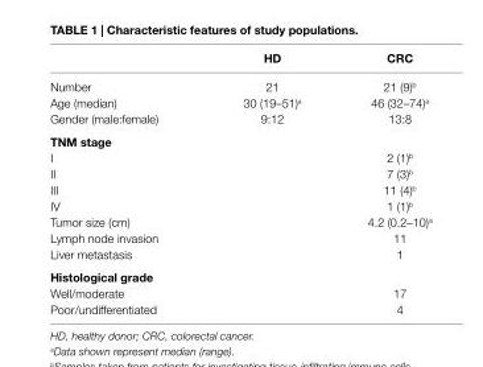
<table><thead><tr><td></td><td>hD</td><td>crc</td></tr></thead><tbody><tr><td>Number</td><td>21</td><td>21 (9)<sup>b</sup></td></tr><tr><td>Age (median)</td><td>30 (19–51)<sup>a</sup></td><td>46 (32–74)<sup>a</sup></td></tr><tr><td>Gender (male:female)</td><td>9:12</td><td>13:8</td></tr><tr><td colspan="3">TnM stage</td></tr><tr><td>I</td><td></td><td>2 (1)<sup>b</sup></td></tr><tr><td>II</td><td></td><td>7 (3)<sup>b</sup></td></tr><tr><td>III</td><td></td><td>11 (4)<sup>b</sup></td></tr><tr><td>IV</td><td></td><td>1 (1)<sup>b</sup></td></tr><tr><td>Tumor size (cm)</td><td></td><td>4.2 (0.2–10)<sup>a</sup></td></tr><tr><td>Lymph node invasion</td><td></td><td>11</td></tr><tr><td>Liver metastasis</td><td></td><td>1</td></tr><tr><td colspan="3">histological grade</td></tr><tr><td>Well/moderate</td><td></td><td>17</td></tr><tr><td>Poor/undifferentiated</td><td></td><td>4</td></tr></tbody></table>